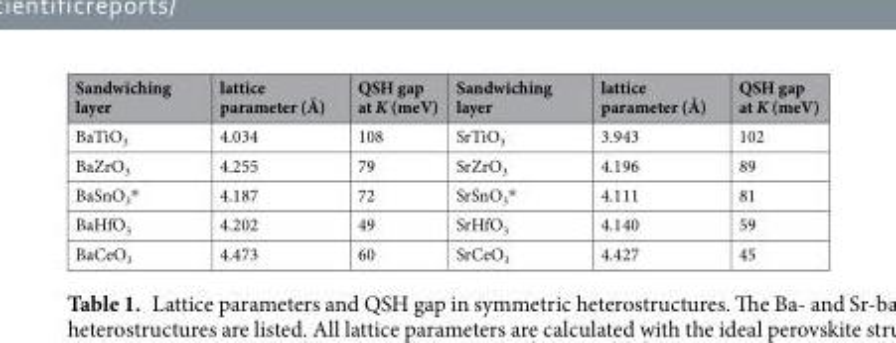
<table><thead><tr><td>Sandwiching layer</td><td>lattice parameter (Å)</td><td>QSH gap at K (meV)</td><td>Sandwiching layer</td><td>lattice parameter (Å)</td><td>QSH gap at K (meV)</td></tr></thead><tbody><tr><td>BaTiO<sub>3</sub></td><td>4.034</td><td>108</td><td>SrTiO<sub>3</sub></td><td>3.943</td><td>102</td></tr><tr><td>BaZrO<sub>3</sub></td><td>4.255</td><td>79</td><td>SrZrO<sub>3</sub></td><td>4.196</td><td>89</td></tr><tr><td>BaSnO<sub>3</sub>*</td><td>4.187</td><td>72</td><td>SrSnO<sub>3</sub>*</td><td>4.111</td><td>81</td></tr><tr><td>BaHfO<sub>3</sub></td><td>4.202</td><td>49</td><td>SrHfO<sub>3</sub></td><td>4.140</td><td>59</td></tr><tr><td>BaCeO<sub>3</sub></td><td>4.473</td><td>60</td><td>SrCeO<sub>3</sub></td><td>4.427</td><td>45</td></tr></tbody></table>